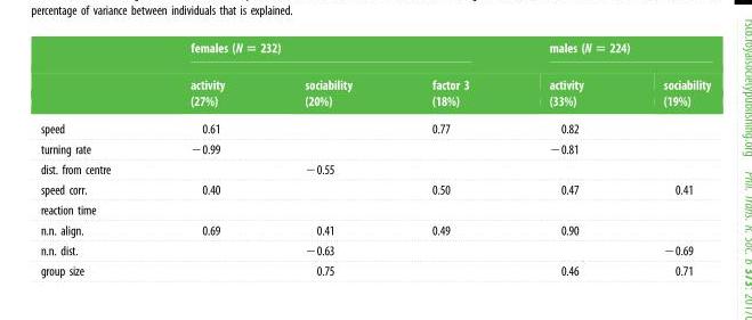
<table><thead><tr><td rowspan="3"></td><td colspan="3">females (N = 232)</td><td colspan="2">males (N = 224)</td></tr><tr><td rowspan="2">activity (27%)</td><td rowspan="2">sociability (20%)</td><td rowspan="2">factor 3 (18%)</td><td rowspan="2">activity (33%)</td><td rowspan="2">sociability (19%)</td></tr><tr></tr></thead><tbody><tr><td>speed</td><td>0.61</td><td></td><td>0.77</td><td>0.82</td><td></td></tr><tr><td>turning rate</td><td>−0.99</td><td></td><td></td><td>−0.81</td><td></td></tr><tr><td>dist. from centre</td><td></td><td>−0.55</td><td></td><td></td><td></td></tr><tr><td>speed corr.</td><td>0.40</td><td></td><td>0.50</td><td>0.47</td><td>0.41</td></tr><tr><td colspan="6">reaction time</td></tr><tr><td>n.n. align.</td><td>0.69</td><td>0.41</td><td>0.49</td><td>0.90</td><td></td></tr><tr><td>n.n. dist.</td><td></td><td>−0.63</td><td></td><td></td><td>−0.69</td></tr><tr><td>group size</td><td></td><td>0.75</td><td></td><td>0.46</td><td>0.71</td></tr></tbody></table>